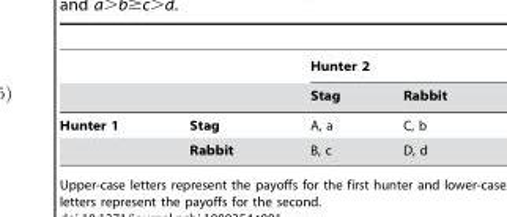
<table><thead><tr><td rowspan="2"></td><td rowspan="2"></td><td colspan="2">Hunter 2</td></tr><tr><td>Stag</td><td>Rabbit</td></tr></thead><tbody><tr><td rowspan="2">Hunter 1</td><td>Stag</td><td>A, a</td><td>C, b</td></tr><tr><td>Rabbit</td><td>B, c</td><td>D, d</td></tr></tbody></table>